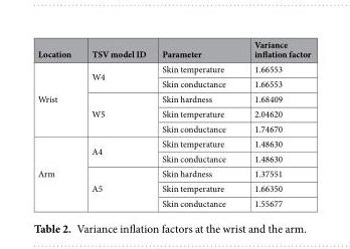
<table><thead><tr><td>Location</td><td>TSV model ID</td><td>Parameter</td><td>Variance inflation factor</td></tr></thead><tbody><tr><td rowspan="5">Wrist</td><td rowspan="2">W4</td><td>Skin temperature</td><td>1.66553</td></tr><tr><td>Skin conductance</td><td>1.66553</td></tr><tr><td rowspan="3">W5</td><td>Skin hardness</td><td>1.68409</td></tr><tr><td>Skin temperature</td><td>2.04620</td></tr><tr><td>Skin conductance</td><td>1.74670</td></tr><tr><td rowspan="5">Arm</td><td rowspan="2">A4</td><td>Skin temperature</td><td>1.48630</td></tr><tr><td>Skin conductance</td><td>1.48630</td></tr><tr><td rowspan="3">A5</td><td>Skin hardness</td><td>1.37551</td></tr><tr><td>Skin temperature</td><td>1.66350</td></tr><tr><td>Skin conductance</td><td>1.55677</td></tr></tbody></table>